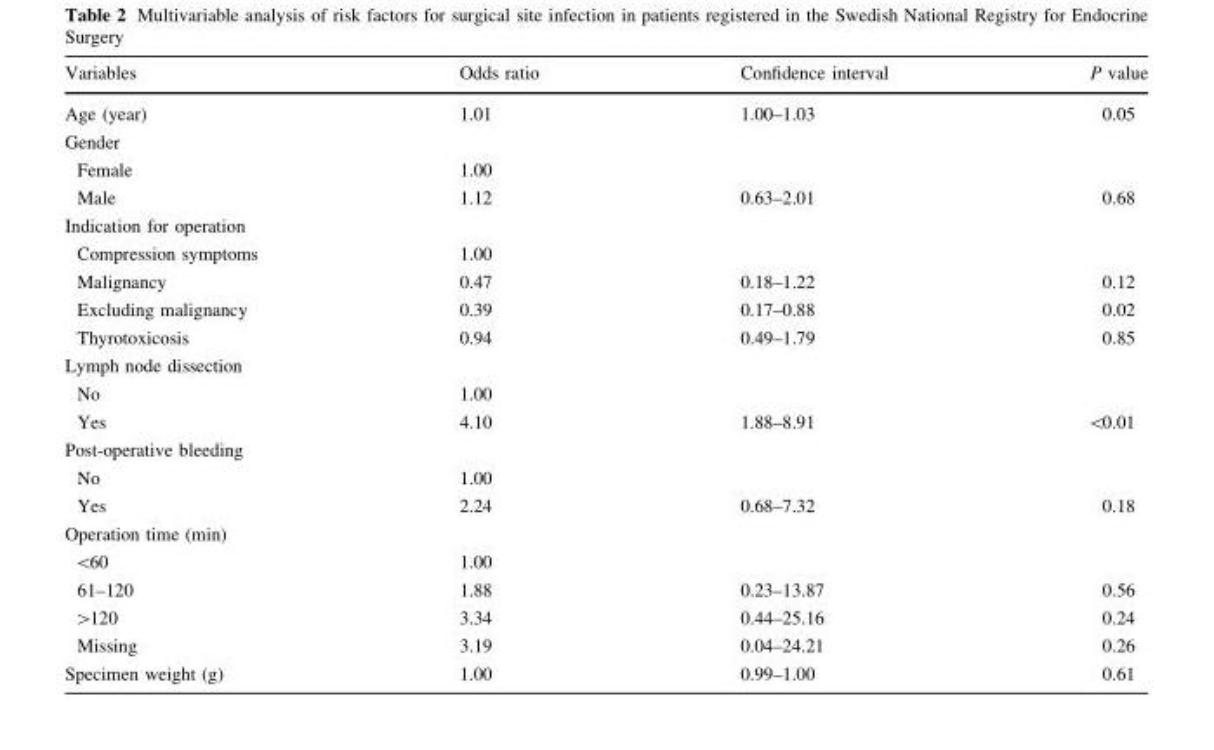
<table><thead><tr><td>Variables</td><td>Odds ratio</td><td>Confidence interval</td><td>P value</td></tr></thead><tbody><tr><td>Age (year)</td><td>1.01</td><td>1.00–1.03</td><td>0.05</td></tr><tr><td colspan="4">Gender</td></tr><tr><td>Female</td><td>1.00</td><td></td><td></td></tr><tr><td>Male</td><td>1.12</td><td>0.63–2.01</td><td>0.68</td></tr><tr><td colspan="4">Indication for operation</td></tr><tr><td>Compression symptoms</td><td>1.00</td><td></td><td></td></tr><tr><td>Malignancy</td><td>0.47</td><td>0.18–1.22</td><td>0.12</td></tr><tr><td>Excluding malignancy</td><td>0.39</td><td>0.17–0.88</td><td>0.02</td></tr><tr><td>Thyrotoxicosis</td><td>0.94</td><td>0.49–1.79</td><td>0.85</td></tr><tr><td colspan="4">Lymph node dissection</td></tr><tr><td>No</td><td>1.00</td><td></td><td></td></tr><tr><td>Yes</td><td>4.10</td><td>1.88–8.91</td><td>&lt;0.01</td></tr><tr><td colspan="4">Post-operative bleeding</td></tr><tr><td>No</td><td>1.00</td><td></td><td></td></tr><tr><td>Yes</td><td>2.24</td><td>0.68–7.32</td><td>0.18</td></tr><tr><td colspan="4">Operation time (min)</td></tr><tr><td>&lt;60</td><td>1.00</td><td></td><td></td></tr><tr><td>61–120</td><td>1.88</td><td>0.23–13.87</td><td>0.56</td></tr><tr><td>&gt;120</td><td>3.34</td><td>0.44–25.16</td><td>0.24</td></tr><tr><td>Missing</td><td>3.19</td><td>0.04–24.21</td><td>0.26</td></tr><tr><td>Specimen weight (g)</td><td>1.00</td><td>0.99–1.00</td><td>0.61</td></tr></tbody></table>